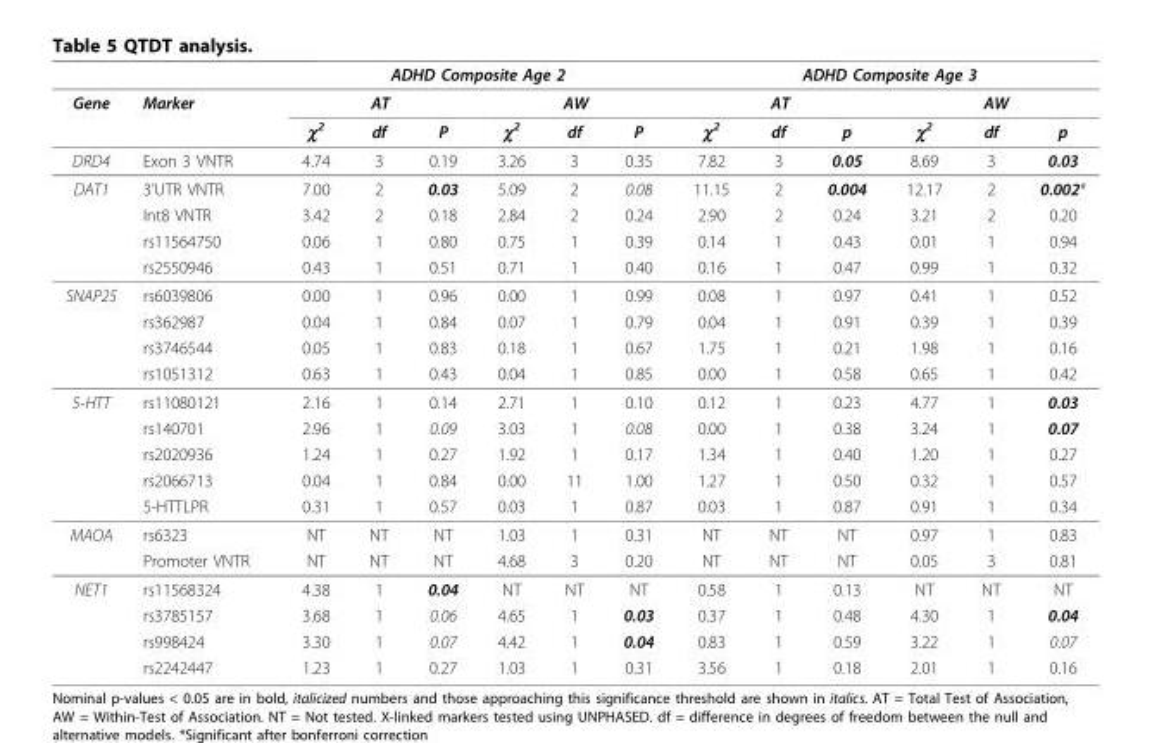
<table><thead><tr><td rowspan="3">Gene</td><td rowspan="3">Marker</td><td colspan="6">ADHD Composite Age 2</td><td colspan="6">ADHD Composite Age 3</td></tr><tr><td colspan="3">AT</td><td colspan="3">AW</td><td colspan="3">AT</td><td colspan="3">AW</td></tr><tr><td>χ<sup>2</sup></td><td>df</td><td>P</td><td>χ<sup>2</sup></td><td>df</td><td>P</td><td>χ<sup>2</sup></td><td>df</td><td>p</td><td>χ<sup>2</sup></td><td>df</td><td>p</td></tr></thead><tbody><tr><td>DRD4</td><td>Exon 3 VNTR</td><td>4.74</td><td>3</td><td>0.19</td><td>3.26</td><td>3</td><td>0.35</td><td>7.82</td><td>3</td><td>0.05</td><td>8.69</td><td>3</td><td>0.03</td></tr><tr><td rowspan="4">DAT1</td><td>3’UTR VNTR</td><td>7.00</td><td>2</td><td>0.03</td><td>5.09</td><td>2</td><td>0.08</td><td>11.15</td><td>2</td><td>0.004</td><td>12.17</td><td>2</td><td>0.002*</td></tr><tr><td>Int8 VNTR</td><td>3.42</td><td>2</td><td>0.18</td><td>2.84</td><td>2</td><td>0.24</td><td>2.90</td><td>2</td><td>0.24</td><td>3.21</td><td>2</td><td>0.20</td></tr><tr><td>rs11564750</td><td>0.06</td><td>1</td><td>0.80</td><td>0.75</td><td>1</td><td>0.39</td><td>0.14</td><td>1</td><td>0.43</td><td>0.01</td><td>1</td><td>0.94</td></tr><tr><td>rs2550946</td><td>0.43</td><td>1</td><td>0.51</td><td>0.71</td><td>1</td><td>0.40</td><td>0.16</td><td>1</td><td>0.47</td><td>0.99</td><td>1</td><td>0.32</td></tr><tr><td rowspan="4">SNAP25</td><td>rs6039806</td><td>0.00</td><td>1</td><td>0.96</td><td>0.00</td><td>1</td><td>0.99</td><td>0.08</td><td>1</td><td>0.97</td><td>0.41</td><td>1</td><td>0.52</td></tr><tr><td>rs362987</td><td>0.04</td><td>1</td><td>0.84</td><td>0.07</td><td>1</td><td>0.79</td><td>0.04</td><td>1</td><td>0.91</td><td>0.39</td><td>1</td><td>0.39</td></tr><tr><td>rs3746544</td><td>0.05</td><td>1</td><td>0.83</td><td>0.18</td><td>1</td><td>0.67</td><td>1.75</td><td>1</td><td>0.21</td><td>1.98</td><td>1</td><td>0.16</td></tr><tr><td>rs1051312</td><td>0.63</td><td>1</td><td>0.43</td><td>0.04</td><td>1</td><td>0.85</td><td>0.00</td><td>1</td><td>0.58</td><td>0.65</td><td>1</td><td>0.42</td></tr><tr><td rowspan="5">5-HTT</td><td>rs11080121</td><td>2.16</td><td>1</td><td>0.14</td><td>2.71</td><td>1</td><td>0.10</td><td>0.12</td><td>1</td><td>0.23</td><td>4.77</td><td>1</td><td>0.03</td></tr><tr><td>rs140701</td><td>2.96</td><td>1</td><td>0.09</td><td>3.03</td><td>1</td><td>0.08</td><td>0.00</td><td>1</td><td>0.38</td><td>3.24</td><td>1</td><td>0.07</td></tr><tr><td>rs2020936</td><td>1.24</td><td>1</td><td>0.27</td><td>1.92</td><td>1</td><td>0.17</td><td>1.34</td><td>1</td><td>0.40</td><td>1.20</td><td>1</td><td>0.27</td></tr><tr><td>rs2066713</td><td>0.04</td><td>1</td><td>0.84</td><td>0.00</td><td>11</td><td>1.00</td><td>1.27</td><td>1</td><td>0.50</td><td>0.32</td><td>1</td><td>0.57</td></tr><tr><td>5-HTTLPR</td><td>0.31</td><td>1</td><td>0.57</td><td>0.03</td><td>1</td><td>0.87</td><td>0.03</td><td>1</td><td>0.87</td><td>0.91</td><td>1</td><td>0.34</td></tr><tr><td rowspan="2">MAOA</td><td>rs6323</td><td>NT</td><td>NT</td><td>NT</td><td>1.03</td><td>1</td><td>0.31</td><td>NT</td><td>NT</td><td>NT</td><td>0.97</td><td>1</td><td>0.83</td></tr><tr><td>Promoter VNTR</td><td>NT</td><td>NT</td><td>NT</td><td>4.68</td><td>3</td><td>0.20</td><td>NT</td><td>NT</td><td>NT</td><td>0.05</td><td>3</td><td>0.81</td></tr><tr><td rowspan="4">NET1</td><td>rs11568324</td><td>4.38</td><td>1</td><td>0.04</td><td>NT</td><td>NT</td><td>NT</td><td>0.58</td><td>1</td><td>0.13</td><td>NT</td><td>NT</td><td>NT</td></tr><tr><td>rs3785157</td><td>3.68</td><td>1</td><td>0.06</td><td>4.65</td><td>1</td><td>0.03</td><td>0.37</td><td>1</td><td>0.48</td><td>4.30</td><td>1</td><td>0.04</td></tr><tr><td>rs998424</td><td>3.30</td><td>1</td><td>0.07</td><td>4.42</td><td>1</td><td>0.04</td><td>0.83</td><td>1</td><td>0.59</td><td>3.22</td><td>1</td><td>0.07</td></tr><tr><td>rs2242447</td><td>1.23</td><td>1</td><td>0.27</td><td>1.03</td><td>1</td><td>0.31</td><td>3.56</td><td>1</td><td>0.18</td><td>2.01</td><td>1</td><td>0.16</td></tr></tbody></table>